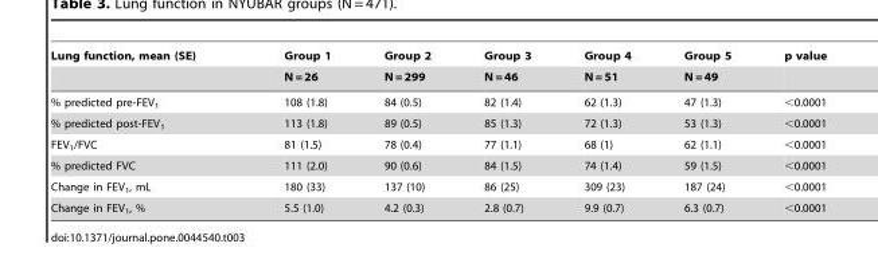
<table><thead><tr><td rowspan="2">Lung function, mean (SE)</td><td rowspan="2">Group 1 N = 26</td><td rowspan="2">Group 2 N = 299</td><td rowspan="2">Group 3 N = 46</td><td rowspan="2">Group 4 N = 51</td><td rowspan="2">Group 5 N = 49</td><td rowspan="2">p value</td></tr><tr></tr></thead><tbody><tr><td>% predicted pre-FEV<sub>1</sub></td><td>108 (1.8)</td><td>84 (0.5)</td><td>82 (1.4)</td><td>62 (1.3)</td><td>47 (1.3)</td><td>&lt;0.0001</td></tr><tr><td>% predicted post-FEV<sub>1</sub></td><td>113 (1.8)</td><td>89 (0.5)</td><td>85 (1.3)</td><td>72 (1.3)</td><td>53 (1.3)</td><td>&lt;0.0001</td></tr><tr><td>FEV<sub>1</sub>/FVC</td><td>81 (1.5)</td><td>78 (0.4)</td><td>77 (1.1)</td><td>68 (1)</td><td>62 (1.1)</td><td>&lt;0.0001</td></tr><tr><td>% predicted FVC</td><td>111 (2.0)</td><td>90 (0.6)</td><td>84 (1.5)</td><td>74 (1.4)</td><td>59 (1.5)</td><td>&lt;0.0001</td></tr><tr><td>Change in FEV<sub>1</sub>, mL</td><td>180 (33)</td><td>137 (10)</td><td>86 (25)</td><td>309 (23)</td><td>187 (24)</td><td>&lt;0.0001</td></tr><tr><td>Change in FEV<sub>1</sub>, %</td><td>5.5 (1.0)</td><td>4.2 (0.3)</td><td>2.8 (0.7)</td><td>9.9 (0.7)</td><td>6.3 (0.7)</td><td>&lt;0.0001</td></tr></tbody></table>